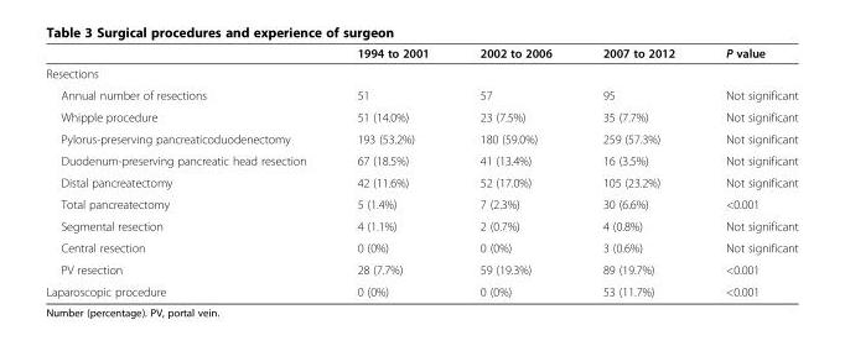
<table><thead><tr><td></td><td>1994 to 2001</td><td>2002 to 2006</td><td>2007 to 2012</td><td>P value</td></tr></thead><tbody><tr><td colspan="5">Resections</td></tr><tr><td>Annual number of resections</td><td>51</td><td>57</td><td>95</td><td>Not significant</td></tr><tr><td>Whipple procedure</td><td>51 (14.0%)</td><td>23 (7.5%)</td><td>35 (7.7%)</td><td>Not significant</td></tr><tr><td>Pylorus-preserving pancreaticoduodenectomy</td><td>193 (53.2%)</td><td>180 (59.0%)</td><td>259 (57.3%)</td><td>Not significant</td></tr><tr><td>Duodenum-preserving pancreatic head resection</td><td>67 (18.5%)</td><td>41 (13.4%)</td><td>16 (3.5%)</td><td>Not significant</td></tr><tr><td>Distal pancreatectomy</td><td>42 (11.6%)</td><td>52 (17.0%)</td><td>105 (23.2%)</td><td>Not significant</td></tr><tr><td>Total pancreatectomy</td><td>5 (1.4%)</td><td>7 (2.3%)</td><td>30 (6.6%)</td><td>&lt;0.001</td></tr><tr><td>Segmental resection</td><td>4 (1.1%)</td><td>2 (0.7%)</td><td>4 (0.8%)</td><td>Not significant</td></tr><tr><td>Central resection</td><td>0 (0%)</td><td>0 (0%)</td><td>3 (0.6%)</td><td>Not significant</td></tr><tr><td>PV resection</td><td>28 (7.7%)</td><td>59 (19.3%)</td><td>89 (19.7%)</td><td>&lt;0.001</td></tr><tr><td>Laparoscopic procedure</td><td>0 (0%)</td><td>0 (0%)</td><td>53 (11.7%)</td><td>&lt;0.001</td></tr></tbody></table>